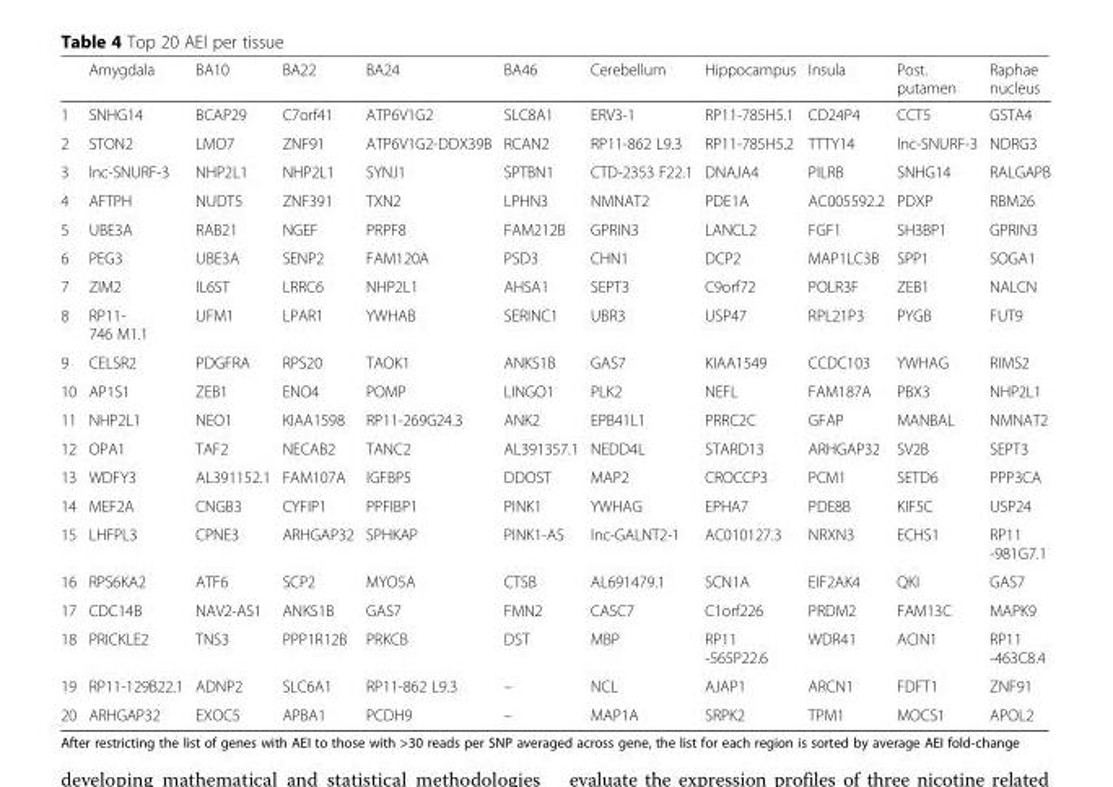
<table><thead><tr><td></td><td>Amygdala</td><td>BA10</td><td>BA22</td><td>BA24</td><td>BA46</td><td>Cerebellum</td><td>Hippocampus</td><td>Insula</td><td>Post. putamen</td><td>Raphae nucleus</td></tr></thead><tbody><tr><td>1</td><td>SNHG14</td><td>BCAP29</td><td>C7orf41</td><td>ATP6V1G2</td><td>SLC8A1</td><td>ERV3-1</td><td>RP11-785H5.1</td><td>CD24P4</td><td>CCT5</td><td>GSTA4</td></tr><tr><td>2</td><td>STON2</td><td>LMO7</td><td>ZNF91</td><td>ATP6V1G2-DDX39B</td><td>RCAN2</td><td>RP11-862 L9.3</td><td>RP11-785H5.2</td><td>TTTY14</td><td>lnc-SNURF-3</td><td>NDRG3</td></tr><tr><td>3</td><td>lnc-SNURF-3</td><td>NHP2L1</td><td>NHP2L1</td><td>SYNJ1</td><td>SPTBN1</td><td>CTD-2353 F22.1</td><td>DNAJA4</td><td>PILRB</td><td>SNHG14</td><td>RALGAPB</td></tr><tr><td>4</td><td>AFTPH</td><td>NUDT5</td><td>ZNF391</td><td>TXN2</td><td>LPHN3</td><td>NMNAT2</td><td>PDE1A</td><td>AC005592.2</td><td>PDXP</td><td>RBM26</td></tr><tr><td>5</td><td>UBE3A</td><td>RAB21</td><td>NGEF</td><td>PRPF8</td><td>FAM212B</td><td>GPRIN3</td><td>LANCL2</td><td>FGF1</td><td>SH3BP1</td><td>GPRIN3</td></tr><tr><td>6</td><td>PEG3</td><td>UBE3A</td><td>SENP2</td><td>FAM120A</td><td>PSD3</td><td>CHN1</td><td>DCP2</td><td>MAP1LC3B</td><td>SPP1</td><td>SOGA1</td></tr><tr><td>7</td><td>ZIM2</td><td>IL6ST</td><td>LRRC6</td><td>NHP2L1</td><td>AHSA1</td><td>SEPT3</td><td>C9orf72</td><td>POLR3F</td><td>ZEB1</td><td>NALCN</td></tr><tr><td>8</td><td>RP11- 746 M1.1</td><td>UFM1</td><td>LPAR1</td><td>YWHAB</td><td>SERINC1</td><td>UBR3</td><td>USP47</td><td>RPL21P3</td><td>PYGB</td><td>FUT9</td></tr><tr><td>9</td><td>CELSR2</td><td>PDGFRA</td><td>RPS20</td><td>TAOK1</td><td>ANKS1B</td><td>GAS7</td><td>KIAA1549</td><td>CCDC103</td><td>YWHAG</td><td>RIMS2</td></tr><tr><td>10</td><td>AP1S1</td><td>ZEB1</td><td>ENO4</td><td>POMP</td><td>LINGO1</td><td>PLK2</td><td>NEFL</td><td>FAM187A</td><td>PBX3</td><td>NHP2L1</td></tr><tr><td>11</td><td>NHP2L1</td><td>NEO1</td><td>KIAA1598</td><td>RP11-269G24.3</td><td>ANK2</td><td>EPB41L1</td><td>PRRC2C</td><td>GFAP</td><td>MANBAL</td><td>NMNAT2</td></tr><tr><td>12</td><td>OPA1</td><td>TAF2</td><td>NECAB2</td><td>TANC2</td><td>AL391357.1</td><td>NEDD4L</td><td>STARD13</td><td>ARHGAP32</td><td>SV2B</td><td>SEPT3</td></tr><tr><td>13</td><td>WDFY3</td><td>AL391152.1</td><td>FAM107A</td><td>IGFBP5</td><td>DDOST</td><td>MAP2</td><td>CROCCP3</td><td>PCM1</td><td>SETD6</td><td>PPP3CA</td></tr><tr><td>14</td><td>MEF2A</td><td>CNGB3</td><td>CYFIP1</td><td>PPFIBP1</td><td>PINK1</td><td>YWHAG</td><td>EPHA7</td><td>PDE8B</td><td>KIF5C</td><td>USP24</td></tr><tr><td>15</td><td>LHFPL3</td><td>CPNE3</td><td>ARHGAP32</td><td>SPHKAP</td><td>PINK1-AS</td><td>lnc-GALNT2-1</td><td>AC010127.3</td><td>NRXN3</td><td>ECHS1</td><td>RP11 -981G7.1</td></tr><tr><td>16</td><td>RPS6KA2</td><td>ATF6</td><td>SCP2</td><td>MYO5A</td><td>CTSB</td><td>AL691479.1</td><td>SCN1A</td><td>EIF2AK4</td><td>QKI</td><td>GAS7</td></tr><tr><td>17</td><td>CDC14B</td><td>NAV2-AS1</td><td>ANKS1B</td><td>GAS7</td><td>FMN2</td><td>CASC7</td><td>C1orf226</td><td>PRDM2</td><td>FAM13C</td><td>MAPK9</td></tr><tr><td>18</td><td>PRICKLE2</td><td>TNS3</td><td>PPP1R12B</td><td>PRKCB</td><td>DST</td><td>MBP</td><td>RP11 -565P22.6</td><td>WDR41</td><td>ACIN1</td><td>RP11 -463C8.4</td></tr><tr><td>19</td><td>RP11-129B22.1</td><td>ADNP2</td><td>SLC6A1</td><td>RP11-862 L9.3</td><td>–</td><td>NCL</td><td>AJAP1</td><td>ARCN1</td><td>FDFT1</td><td>ZNF91</td></tr><tr><td>20</td><td>ARHGAP32</td><td>EXOC5</td><td>APBA1</td><td>PCDH9</td><td>–</td><td>MAP1A</td><td>SRPK2</td><td>TPM1</td><td>MOCS1</td><td>APOL2</td></tr></tbody></table>